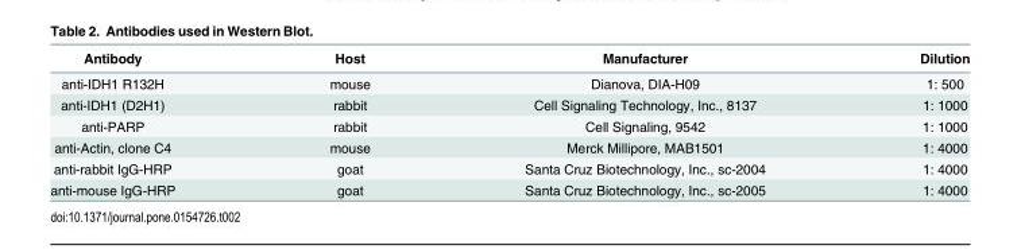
<table><thead><tr><td>Antibody</td><td>Host</td><td>Manufacturer</td><td>Dilution</td></tr></thead><tbody><tr><td>anti-IDH1 R132H</td><td>mouse</td><td>Dianova, DIA-H09</td><td>1: 500</td></tr><tr><td>anti-IDH1 (D2H1)</td><td>rabbit</td><td>Cell Signaling Technology, Inc., 8137</td><td>1: 1000</td></tr><tr><td>anti-PARP</td><td>rabbit</td><td>Cell Signaling, 9542</td><td>1: 1000</td></tr><tr><td>anti-Actin, clone C4</td><td>mouse</td><td>Merck Millipore, MAB1501</td><td>1: 4000</td></tr><tr><td>anti-rabbit IgG-HRP</td><td>goat</td><td>Santa Cruz Biotechnology, Inc., sc-2004</td><td>1: 4000</td></tr><tr><td>anti-mouse IgG-HRP</td><td>goat</td><td>Santa Cruz Biotechnology, Inc., sc-2005</td><td>1: 4000</td></tr></tbody></table>